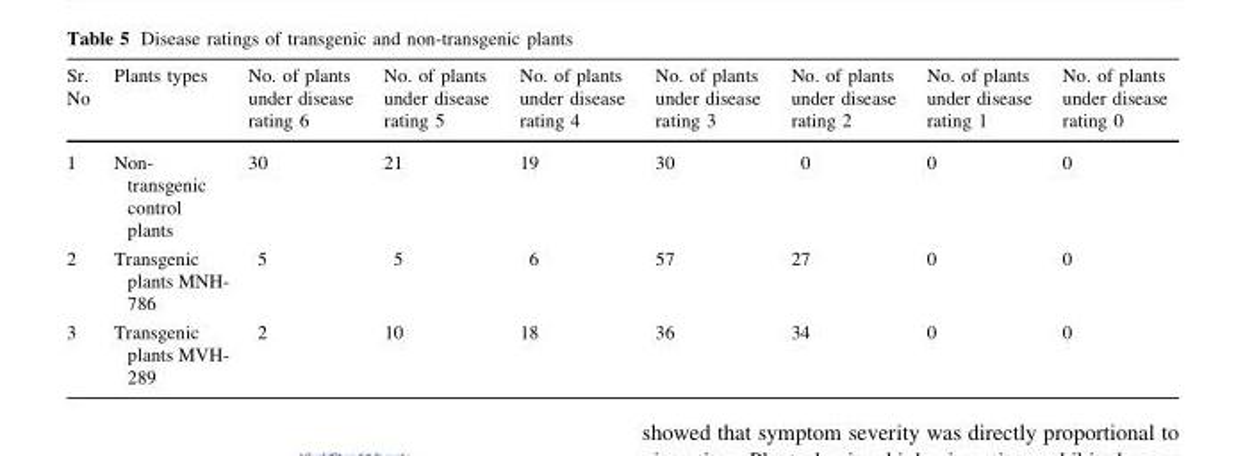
<table><thead><tr><td>Sr. No</td><td>Plants types</td><td>No. of plants under disease rating 6</td><td>No. of plants under disease rating 5</td><td>No. of plants under disease rating 4</td><td>No. of plants under disease rating 3</td><td>No. of plants under disease rating 2</td><td>No. of plants under disease rating 1</td><td>No. of plants under disease rating 0</td></tr></thead><tbody><tr><td>1</td><td>Non- transgenic control plants</td><td>30</td><td>21</td><td>19</td><td>30</td><td>0</td><td>0</td><td>0</td></tr><tr><td>2</td><td>Transgenic plants MNH- 786</td><td>5</td><td>5</td><td>6</td><td>57</td><td>27</td><td>0</td><td>0</td></tr><tr><td>3</td><td>Transgenic plants MVH- 289</td><td>2</td><td>10</td><td>18</td><td>36</td><td>34</td><td>0</td><td>0</td></tr></tbody></table>